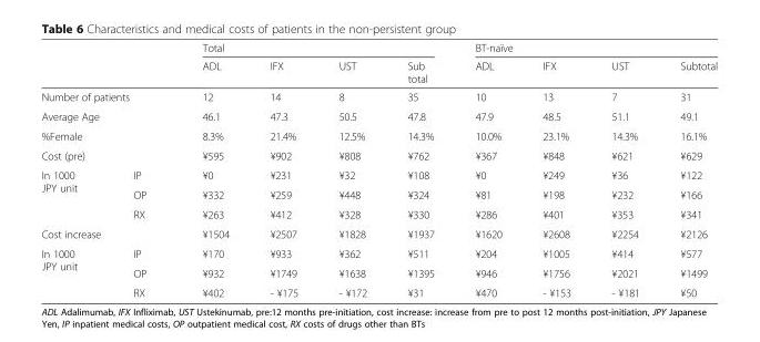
<table><thead><tr><td rowspan="2"></td><td rowspan="2"></td><td colspan="4">Total</td><td colspan="4">BT-naïve</td></tr><tr><td>ADL</td><td>IFX</td><td>UST</td><td>Sub total</td><td>ADL</td><td>IFX</td><td>UST</td><td>Subtotal</td></tr></thead><tbody><tr><td colspan="2">Number of patients</td><td>12</td><td>14</td><td>8</td><td>35</td><td>10</td><td>13</td><td>7</td><td>31</td></tr><tr><td colspan="2">Average Age</td><td>46.1</td><td>47.3</td><td>50.5</td><td>47.8</td><td>47.9</td><td>48.5</td><td>51.1</td><td>49.1</td></tr><tr><td colspan="2">%Female</td><td>8.3%</td><td>21.4%</td><td>12.5%</td><td>14.3%</td><td>10.0%</td><td>23.1%</td><td>14.3%</td><td>16.1%</td></tr><tr><td colspan="2">Cost (pre)</td><td>¥595</td><td>¥902</td><td>¥808</td><td>¥762</td><td>¥367</td><td>¥848</td><td>¥621</td><td>¥629</td></tr><tr><td rowspan="3">In 1000 JPY unit</td><td>IP</td><td>¥0</td><td>¥231</td><td>¥32</td><td>¥108</td><td>¥0</td><td>¥249</td><td>¥36</td><td>¥122</td></tr><tr><td>OP</td><td>¥332</td><td>¥259</td><td>¥448</td><td>¥324</td><td>¥81</td><td>¥198</td><td>¥232</td><td>¥166</td></tr><tr><td>RX</td><td>¥263</td><td>¥412</td><td>¥328</td><td>¥330</td><td>¥286</td><td>¥401</td><td>¥353</td><td>¥341</td></tr><tr><td colspan="2">Cost increase</td><td>¥1504</td><td>¥2507</td><td>¥1828</td><td>¥1937</td><td>¥1620</td><td>¥2608</td><td>¥2254</td><td>¥2126</td></tr><tr><td rowspan="3">In 1000 JPY unit</td><td>IP</td><td>¥170</td><td>¥933</td><td>¥362</td><td>¥511</td><td>¥204</td><td>¥1005</td><td>¥414</td><td>¥577</td></tr><tr><td>OP</td><td>¥932</td><td>¥1749</td><td>¥1638</td><td>¥1395</td><td>¥946</td><td>¥1756</td><td>¥2021</td><td>¥1499</td></tr><tr><td>RX</td><td>¥402</td><td>- ¥175</td><td>- ¥172</td><td>¥31</td><td>¥470</td><td>- ¥153</td><td>- ¥181</td><td>¥50</td></tr></tbody></table>